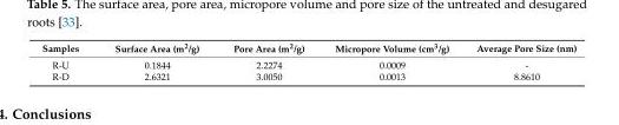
<table><thead><tr><td>Samples</td><td>Surface Area (m<sup>2</sup>/g)</td><td>Pore Area (m<sup>2</sup>/g)</td><td>Micropore Volume (cm<sup>3</sup>/g)</td><td>Average Pore Size (nm)</td></tr></thead><tbody><tr><td>R-U</td><td>0.1844</td><td>2.2274</td><td>0.0009</td><td>-</td></tr><tr><td>R-D</td><td>2.6321</td><td>3.0050</td><td>0.0013</td><td>8.8610</td></tr></tbody></table>